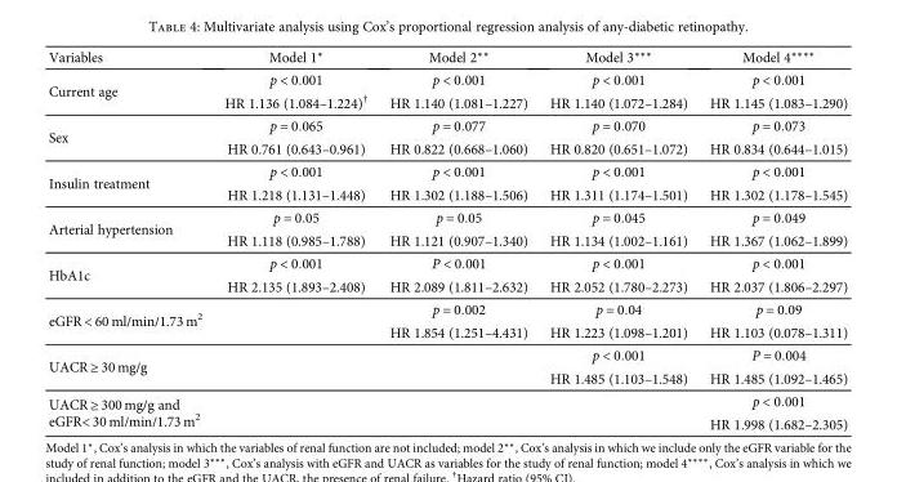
<table><thead><tr><td>Variables</td><td>Model 1∗</td><td>Model 2∗∗</td><td>Model 3∗∗∗</td><td>Model 4∗∗∗∗</td></tr></thead><tbody><tr><td rowspan="2">Current age</td><td>p &lt; 0 001</td><td>p &lt; 0 001</td><td>p &lt; 0 001</td><td>p &lt; 0 001</td></tr><tr><td>HR 1.136 (1.084–1.224)†</td><td>HR 1.140 (1.081–1.227)</td><td>HR 1.140 (1.072–1.284)</td><td>HR 1.145 (1.083–1.290)</td></tr><tr><td rowspan="2">Sex</td><td>p = 0 065</td><td>p = 0 077</td><td>p = 0 070</td><td>p = 0 073</td></tr><tr><td>HR 0.761 (0.643–0.961)</td><td>HR 0.822 (0.668–1.060)</td><td>HR 0.820 (0.651–1.072)</td><td>HR 0.834 (0.644–1.015)</td></tr><tr><td rowspan="2">Insulin treatment</td><td>p &lt; 0 001</td><td>p &lt; 0 001</td><td>p &lt; 0 001</td><td>p &lt; 0 001</td></tr><tr><td>HR 1.218 (1.131–1.448)</td><td>HR 1.302 (1.188–1.506)</td><td>HR 1.311 (1.174–1.501)</td><td>HR 1.302 (1.178–1.545)</td></tr><tr><td rowspan="2">Arterial hypertension</td><td>p = 0 05</td><td>p = 0 05</td><td>p = 0 045</td><td>p = 0 049</td></tr><tr><td>HR 1.118 (0.985–1.788)</td><td>HR 1.121 (0.907–1.340)</td><td>HR 1.134 (1.002–1.161)</td><td>HR 1.367 (1.062–1.899)</td></tr><tr><td rowspan="2">HbA1c</td><td>p &lt; 0 001</td><td>P &lt; 0 001</td><td>p &lt; 0 001</td><td>p &lt; 0 001</td></tr><tr><td>HR 2.135 (1.893–2.408)</td><td>HR 2.089 (1.811–2.632)</td><td>HR 2.052 (1.780–2.273)</td><td>HR 2.037 (1.806–2.297)</td></tr><tr><td rowspan="2">eGFR &lt; 60 ml/min/1.73 m2</td><td></td><td>p = 0 002</td><td>p = 0 04</td><td>p = 0 09</td></tr><tr><td></td><td>HR 1.854 (1.251–4.431)</td><td>HR 1.223 (1.098–1.201)</td><td>HR 1.103 (0.078–1.311)</td></tr><tr><td rowspan="2">UACR ≥ 30 mg/g</td><td></td><td></td><td>p &lt; 0 001</td><td>P = 0 004</td></tr><tr><td></td><td></td><td>HR 1.485 (1.103–1.548)</td><td>HR 1.485 (1.092–1.465)</td></tr><tr><td rowspan="2">UACR ≥ 300 mg/g and eGFR&lt; 30 ml/min/1.73 m2</td><td></td><td></td><td></td><td>p &lt; 0 001</td></tr><tr><td></td><td></td><td></td><td>HR 1.998 (1.682–2.305)</td></tr></tbody></table>